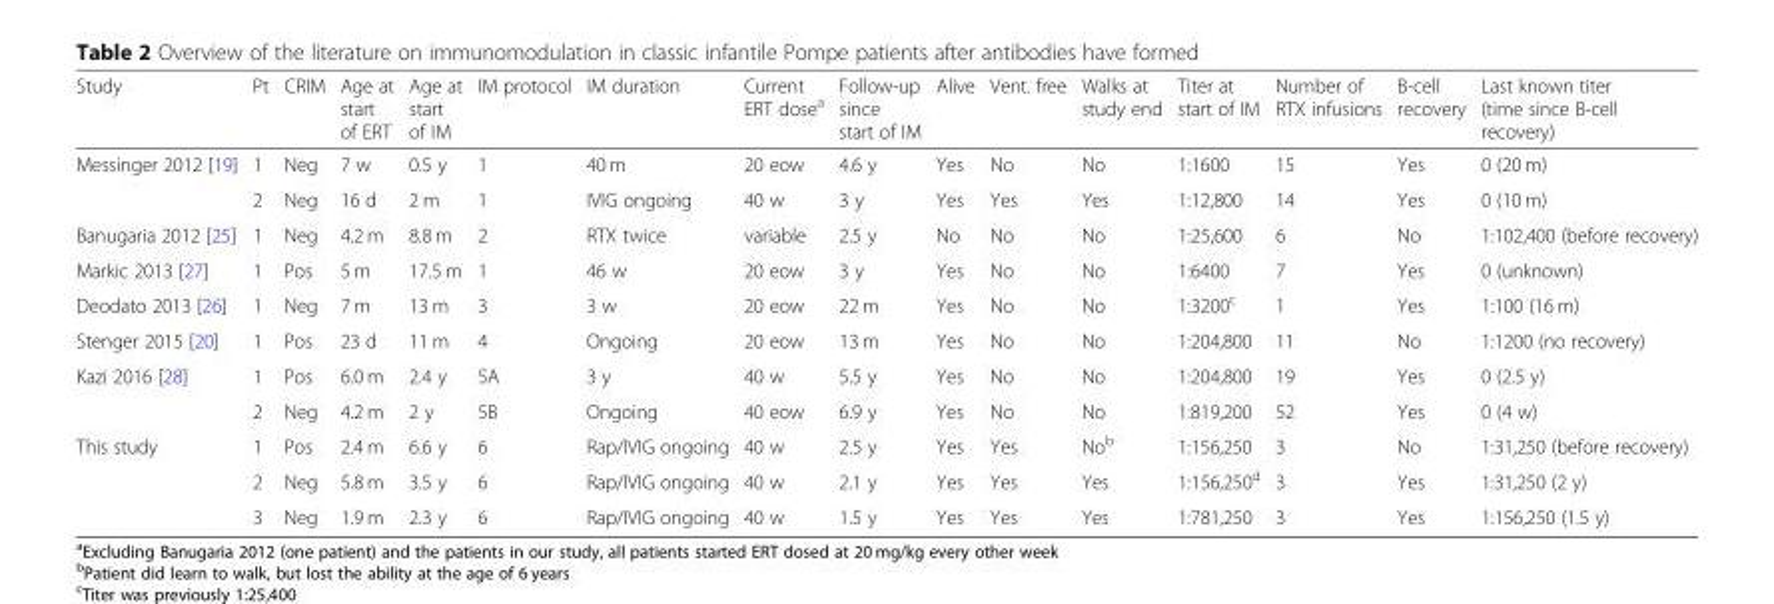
<table><thead><tr><td>Study</td><td>Pt</td><td>CRIM</td><td>Age at start of ERT</td><td>Age at start of IM</td><td>IM protocol</td><td>IM duration</td><td>Current ERT dose<sup>a</sup></td><td>Follow-up since start of IM</td><td>Alive</td><td>Vent. free</td><td>Walks at study end</td><td>Titer at start of IM</td><td>Number of RTX infusions</td><td>B-cell recovery</td><td>Last known titer (time since B-cell recovery)</td></tr></thead><tbody><tr><td rowspan="2">Messinger 2012 [19]</td><td>1</td><td>Neg</td><td>7 w</td><td>0.5 y</td><td>1</td><td>40 m</td><td>20 eow</td><td>4.6 y</td><td>Yes</td><td>No</td><td>No</td><td>1:1600</td><td>15</td><td>Yes</td><td>0 (20 m)</td></tr><tr><td>2</td><td>Neg</td><td>16 d</td><td>2 m</td><td>1</td><td>IVIG ongoing</td><td>40 w</td><td>3 y</td><td>Yes</td><td>Yes</td><td>Yes</td><td>1:12,800</td><td>14</td><td>Yes</td><td>0 (10 m)</td></tr><tr><td>Banugaria 2012 [25]</td><td>1</td><td>Neg</td><td>4.2 m</td><td>8.8 m</td><td>2</td><td>RTX twice</td><td>variable</td><td>2.5 y</td><td>No</td><td>No</td><td>No</td><td>1:25,600</td><td>6</td><td>No</td><td>1:102,400 (before recovery)</td></tr><tr><td>Markic 2013 [27]</td><td>1</td><td>Pos</td><td>5 m</td><td>17.5 m</td><td>1</td><td>46 w</td><td>20 eow</td><td>3 y</td><td>Yes</td><td>No</td><td>No</td><td>1:6400</td><td>7</td><td>Yes</td><td>0 (unknown)</td></tr><tr><td>Deodato 2013 [26]</td><td>1</td><td>Neg</td><td>7 m</td><td>13 m</td><td>3</td><td>3 w</td><td>20 eow</td><td>22 m</td><td>Yes</td><td>No</td><td>No</td><td>1:3200<sup>c</sup></td><td>1</td><td>Yes</td><td>1:100 (16 m)</td></tr><tr><td>Stenger 2015 [20]</td><td>1</td><td>Pos</td><td>23 d</td><td>11 m</td><td>4</td><td>Ongoing</td><td>20 eow</td><td>13 m</td><td>Yes</td><td>No</td><td>No</td><td>1:204,800</td><td>11</td><td>No</td><td>1:1200 (no recovery)</td></tr><tr><td rowspan="2">Kazi 2016 [28]</td><td>1</td><td>Pos</td><td>6.0 m</td><td>2.4 y</td><td>5A</td><td>3 y</td><td>40 w</td><td>5.5 y</td><td>Yes</td><td>No</td><td>No</td><td>1:204,800</td><td>19</td><td>Yes</td><td>0 (2.5 y)</td></tr><tr><td>2</td><td>Neg</td><td>4.2 m</td><td>2 y</td><td>5B</td><td>Ongoing</td><td>40 eow</td><td>6.9 y</td><td>Yes</td><td>No</td><td>No</td><td>1:819,200</td><td>52</td><td>Yes</td><td>0 (4 w)</td></tr><tr><td rowspan="3">This study</td><td>1</td><td>Pos</td><td>2.4 m</td><td>6.6 y</td><td>6</td><td>Rap/IVIG ongoing</td><td>40 w</td><td>2.5 y</td><td>Yes</td><td>Yes</td><td>No<sup>b</sup></td><td>1:156,250</td><td>3</td><td>No</td><td>1:31,250 (before recovery)</td></tr><tr><td>2</td><td>Neg</td><td>5.8 m</td><td>3.5 y</td><td>6</td><td>Rap/IVIG ongoing</td><td>40 w</td><td>2.1 y</td><td>Yes</td><td>Yes</td><td>Yes</td><td>1:156,250<sup>d</sup></td><td>3</td><td>Yes</td><td>1:31,250 (2 y)</td></tr><tr><td>3</td><td>Neg</td><td>1.9 m</td><td>2.3 y</td><td>6</td><td>Rap/IVIG ongoing</td><td>40 w</td><td>1.5 y</td><td>Yes</td><td>Yes</td><td>Yes</td><td>1:781,250</td><td>3</td><td>Yes</td><td>1:156,250 (1.5 y)</td></tr></tbody></table>